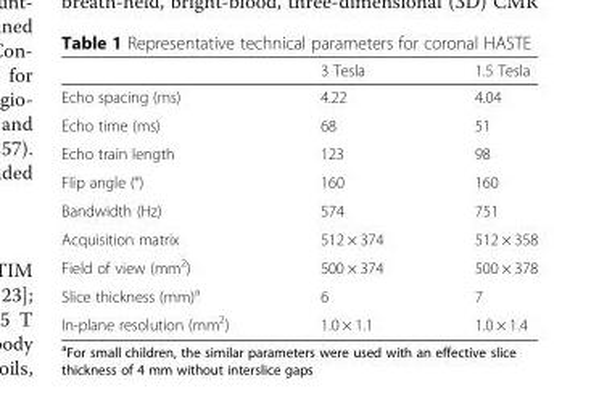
<table><thead><tr><td></td><td>3 Tesla</td><td>1.5 Tesla</td></tr></thead><tbody><tr><td>Echo spacing (ms)</td><td>4.22</td><td>4.04</td></tr><tr><td>Echo time (ms)</td><td>68</td><td>51</td></tr><tr><td>Echo train length</td><td>123</td><td>98</td></tr><tr><td>Flip angle (°)</td><td>160</td><td>160</td></tr><tr><td>Bandwidth (Hz)</td><td>574</td><td>751</td></tr><tr><td>Acquisition matrix</td><td>512 × 374</td><td>512 × 358</td></tr><tr><td>Field of view (mm<sup>2</sup>)</td><td>500 × 374</td><td>500 × 378</td></tr><tr><td>Slice thickness (mm)<sup>a</sup></td><td>6</td><td>7</td></tr><tr><td>In-plane resolution (mm<sup>2</sup>)</td><td>1.0 × 1.1</td><td>1.0 × 1.4</td></tr></tbody></table>